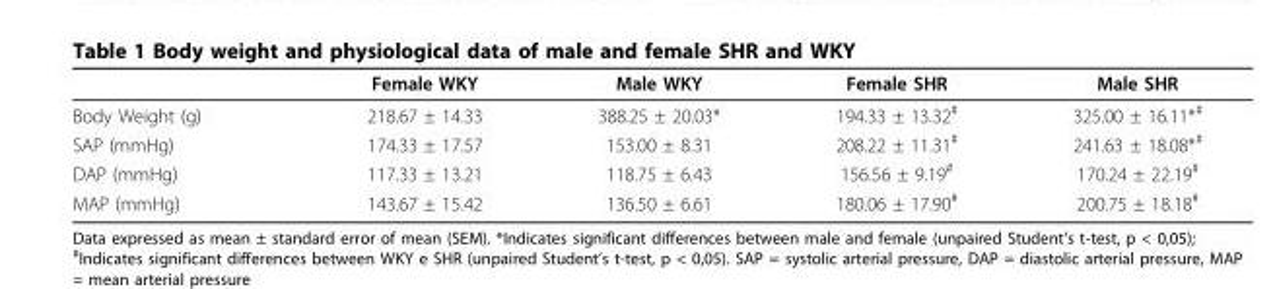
<table><thead><tr><td></td><td>Female WKY</td><td>Male WKY</td><td>Female SHR</td><td>Male SHR</td></tr></thead><tbody><tr><td>Body Weight (g)</td><td>218.67 ± 14.33</td><td>388.25 ± 20.03*</td><td>194.33 ± 13.32<sup>#</sup></td><td>325.00 ± 16.11*<sup>#</sup></td></tr><tr><td>SAP (mmHg)</td><td>174.33 ± 17.57</td><td>153.00 ± 8.31</td><td>208.22 ± 11.31<sup>#</sup></td><td>241.63 ± 18.08*<sup>#</sup></td></tr><tr><td>DAP (mmHg)</td><td>117.33 ± 13.21</td><td>118.75 ± 6.43</td><td>156.56 ± 9.19<sup>#</sup></td><td>170.24 ± 22.19<sup>#</sup></td></tr><tr><td>MAP (mmHg)</td><td>143.67 ± 15.42</td><td>136.50 ± 6.61</td><td>180.06 ± 17.90<sup>#</sup></td><td>200.75 ± 18.18<sup>#</sup></td></tr></tbody></table>